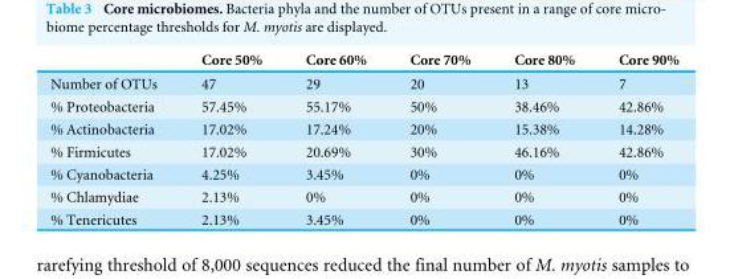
<table><thead><tr><td></td><td>Core 50%</td><td>Core 60%</td><td>Core 70%</td><td>Core 80%</td><td>Core 90%</td></tr></thead><tbody><tr><td>Number of OTUs</td><td>47</td><td>29</td><td>20</td><td>13</td><td>7</td></tr><tr><td>% Proteobacteria</td><td>57.45%</td><td>55.17%</td><td>50%</td><td>38.46%</td><td>42.86%</td></tr><tr><td>% Actinobacteria</td><td>17.02%</td><td>17.24%</td><td>20%</td><td>15.38%</td><td>14.28%</td></tr><tr><td>% Firmicutes</td><td>17.02%</td><td>20.69%</td><td>30%</td><td>46.16%</td><td>42.86%</td></tr><tr><td>% Cyanobacteria</td><td>4.25%</td><td>3.45%</td><td>0%</td><td>0%</td><td>0%</td></tr><tr><td>% Chlamydiae</td><td>2.13%</td><td>0%</td><td>0%</td><td>0%</td><td>0%</td></tr><tr><td>% Tenericutes</td><td>2.13%</td><td>3.45%</td><td>0%</td><td>0%</td><td>0%</td></tr></tbody></table>